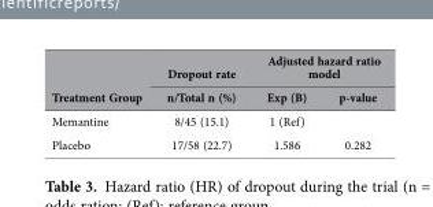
<table><thead><tr><td rowspan="2">Treatment Group</td><td rowspan="2">Dropout rate n/Total n (%)</td><td colspan="2">Adjusted hazard ratio model</td></tr><tr><td>Exp (B)</td><td>p-value</td></tr></thead><tbody><tr><td>Memantine</td><td>8/45 (15.1)</td><td>1 (Ref)</td><td></td></tr><tr><td>Placebo</td><td>17/58 (22.7)</td><td>1.586</td><td>0.282</td></tr></tbody></table>